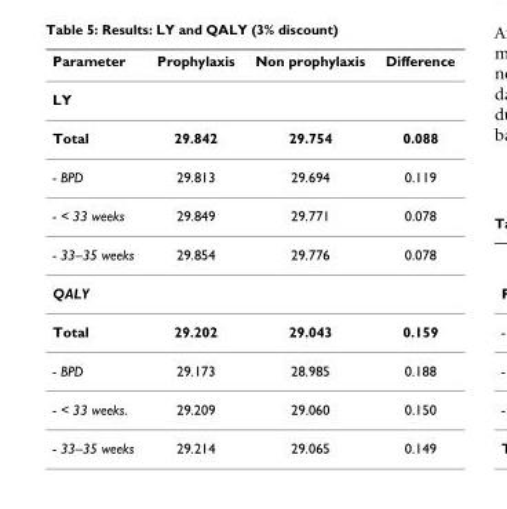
<table><thead><tr><td>Parameter</td><td>Prophylaxis</td><td>Non prophylaxis</td><td>Difference</td></tr></thead><tbody><tr><td colspan="4">LY</td></tr><tr><td>Total</td><td>29.842</td><td>29.754</td><td>0.088</td></tr><tr><td>- BPD</td><td>29.813</td><td>29.694</td><td>0.119</td></tr><tr><td>- &lt; 33 weeks</td><td>29.849</td><td>29.771</td><td>0.078</td></tr><tr><td>- 33–35 weeks</td><td>29.854</td><td>29.776</td><td>0.078</td></tr><tr><td colspan="4">QALY</td></tr><tr><td>Total</td><td>29.202</td><td>29.043</td><td>0.159</td></tr><tr><td>- BPD</td><td>29.173</td><td>28.985</td><td>0.188</td></tr><tr><td>- &lt; 33 weeks.</td><td>29.209</td><td>29.060</td><td>0.150</td></tr><tr><td>- 33–35 weeks</td><td>29.214</td><td>29.065</td><td>0.149</td></tr></tbody></table>